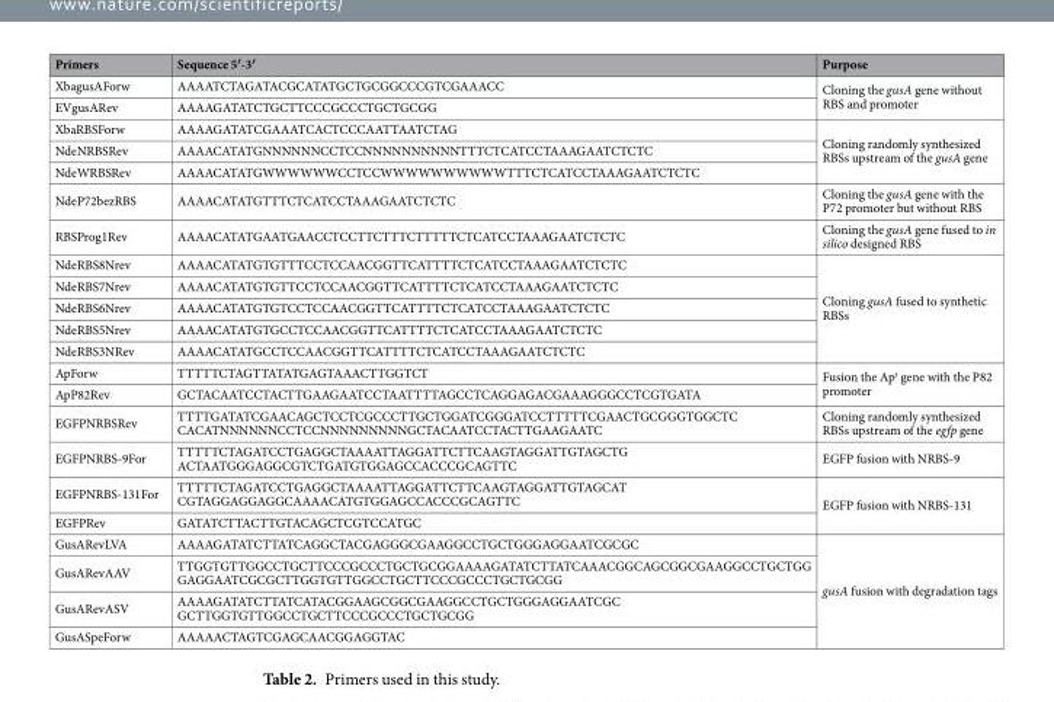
<table><thead><tr><td>Primers</td><td>Sequence 5′-3′</td><td>Purpose</td></tr></thead><tbody><tr><td>XbagusAForw</td><td>AAAATCTAGATACGCATATGCTGCGGCCCGTCGAAACC</td><td rowspan="2">Cloning the gusA gene without RBS and promoter</td></tr><tr><td>EVgusARev</td><td>AAAAGATATCTGCTTCCCGCCCTGCTGCGG</td></tr><tr><td>XbaRBSForw</td><td>AAAAGATATCGAAATCACTCCCAATTAATCTAG</td><td rowspan="3">Cloning randomly synthesized RBSs upstream of the gusA gene</td></tr><tr><td>NdeNRBSRev</td><td>AAAACATATGNNNNNNCCTCCNNNNNNNNNNTTTCTCATCCTAAAGAATCTCTC</td></tr><tr><td>NdeWRBSRev</td><td>AAAACATATGWWWWWWCCTCCWWWWWWWWWWTTTCTCATCCTAAAGAATCTCTC</td></tr><tr><td>NdeP72bezRBS</td><td>AAAACATATGTTTCTCATCCTAAAGAATCTCTC</td><td>Cloning the gusA gene with the P72 promoter but without RBS</td></tr><tr><td>RBSProg1Rev</td><td>AAAACATATGAATGAACCTCCTTCTTTCTTTTTCTCATCCTAAAGAATCTCTC</td><td>Cloning the gusA gene fused to in silico designed RBS</td></tr><tr><td>NdeRBS8Nrev</td><td>AAAACATATGTGTTTCCTCCAACGGTTCATTTTCTCATCCTAAAGAATCTCTC</td><td rowspan="5">Cloning gusA fused to synthetic RBSs</td></tr><tr><td>NdeRBS7Nrev</td><td>AAAACATATGTGTTCCTCCAACGGTTCATTTTCTCATCCTAAAGAATCTCTC</td></tr><tr><td>NdeRBS6Nrev</td><td>AAAACATATGTGTCCTCCAACGGTTCATTTTCTCATCCTAAAGAATCTCTC</td></tr><tr><td>NdeRBS5Nrev</td><td>AAAACATATGTGCCTCCAACGGTTCATTTTCTCATCCTAAAGAATCTCTC</td></tr><tr><td>NdeRBS3NRev</td><td>AAAACATATGCCTCCAACGGTTCATTTTCTCATCCTAAAGAATCTCTC</td></tr><tr><td>ApForw</td><td>TTTTTCTAGTTATATGAGTAAACTTGGTCT</td><td rowspan="2">Fusion the Ap<sup>r</sup> gene with the P82 promoter</td></tr><tr><td>ApP82Rev</td><td>GCTACAATCCTACTTGAAGAATCCTAATTTTAGCCTCAGGAGACGAAAGGGCCTCGTGATA</td></tr><tr><td>EGFPNRBSRev</td><td>TTTTGATATCGAACAGCTCCTCGCCCTTGCTGGATCGGGATCCTTTTTCGAACTGCGGGTGGCTC CACATNNNNNNCCTCCNNNNNNNNNGCTACAATCCTACTTGAAGAATC</td><td>Cloning randomly synthesized RBSs upstream of the egfp gene</td></tr><tr><td>EGFPNRBS-9For</td><td>TTTTTCTAGATCCTGAGGCTAAAATTAGGATTCTTCAAGTAGGATTGTAGCTG ACTAATGGGAGGCGTCTGATGTGGAGCCACCCGCAGTTC</td><td>EGFP fusion with NRBS-9</td></tr><tr><td>EGFPNRBS-131For</td><td>TTTTTCTAGATCCTGAGGCTAAAATTAGGATTCTTCAAGTAGGATTGTAGCAT CGTAGGAGGAGGCAAAACATGTGGAGCCACCCGCAGTTC</td><td rowspan="2">EGFP fusion with NRBS-131</td></tr><tr><td>EGFPRev</td><td>GATATCTTACTTGTACAGCTCGTCCATGC</td></tr><tr><td>GusARevLVA</td><td>AAAAGATATCTTATCAGGCTACGAGGGCGAAGGCCTGCTGGGAGGAATCGCGC</td><td rowspan="4">gusA fusion with degradation tags</td></tr><tr><td>GusARevAAV</td><td>TTGGTGTTGGCCTGCTTCCCGCCCTGCTGCGGAAAAGATATCTTATCAAACGGCAGCGGCGAAGGCCTGCTGG GAGGAATCGCGCTTGGTGTTGGCCTGCTTCCCGCCCTGCTGCGG</td></tr><tr><td>GusARevASV</td><td>AAAAGATATCTTATCATACGGAAGCGGCGAAGGCCTGCTGGGAGGAATCGC GCTTGGTGTTGGCCTGCTTCCCGCCCTGCTGCGG</td></tr><tr><td>GusASpeForw</td><td>AAAAACTAGTCGAGCAACGGAGGTAC</td></tr></tbody></table>